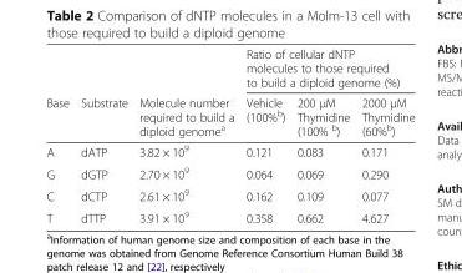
<table><thead><tr><td rowspan="2">Base</td><td rowspan="2">Substrate</td><td rowspan="2">Molecule number required to build a diploid genome<sup>a</sup></td><td colspan="3">Ratio of cellular dNTP molecules to those required to build a diploid genome (%)</td></tr><tr><td>Vehicle (100%<sup>b</sup>)</td><td>200 μM Thymidine (100% <sup>b</sup>)</td><td>2000 μM Thymidine (60%<sup>b</sup>)</td></tr></thead><tbody><tr><td>A</td><td>dATP</td><td>3.82 × 10<sup>9</sup></td><td>0.121</td><td>0.083</td><td>0.171</td></tr><tr><td>G</td><td>dGTP</td><td>2.70 × 10<sup>9</sup></td><td>0.064</td><td>0.069</td><td>0.290</td></tr><tr><td>C</td><td>dCTP</td><td>2.61 × 10<sup>9</sup></td><td>0.162</td><td>0.109</td><td>0.077</td></tr><tr><td>T</td><td>dTTP</td><td>3.91 × 10<sup>9</sup></td><td>0.358</td><td>0.662</td><td>4.627</td></tr></tbody></table>